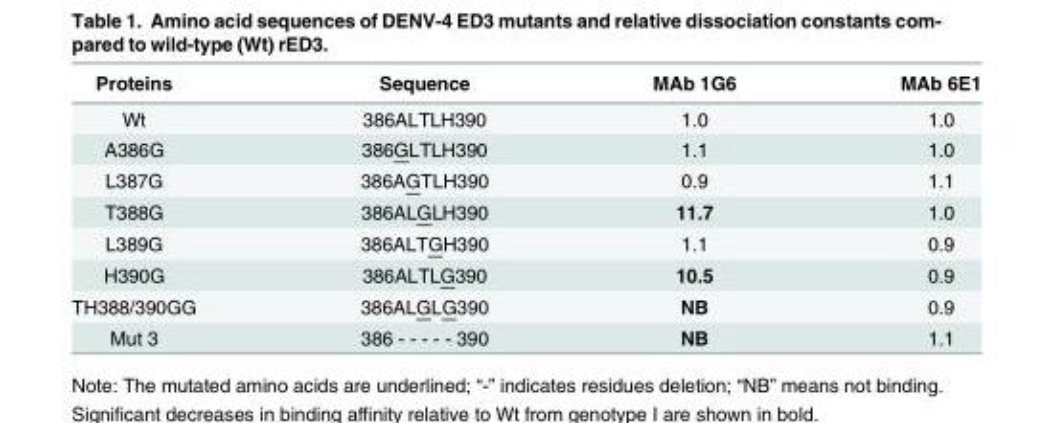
<table><thead><tr><td>Proteins</td><td>Sequence</td><td>MAb 1G6</td><td>MAb 6E1</td></tr></thead><tbody><tr><td>Wt</td><td>386ALTLH390</td><td>1.0</td><td>1.0</td></tr><tr><td>A386G</td><td>386GLTLH390</td><td>1.1</td><td>1.0</td></tr><tr><td>L387G</td><td>386AGTLH390</td><td>0.9</td><td>1.1</td></tr><tr><td>T388G</td><td>386ALGLH390</td><td>11.7</td><td>1.0</td></tr><tr><td>L389G</td><td>386ALTGH390</td><td>1.1</td><td>0.9</td></tr><tr><td>H390G</td><td>386ALTLG390</td><td>10.5</td><td>0.9</td></tr><tr><td>TH388/390GG</td><td>386ALGLG390</td><td>NB</td><td>0.9</td></tr><tr><td>Mut 3</td><td>386 - - - - - 390</td><td>NB</td><td>1.1</td></tr></tbody></table>